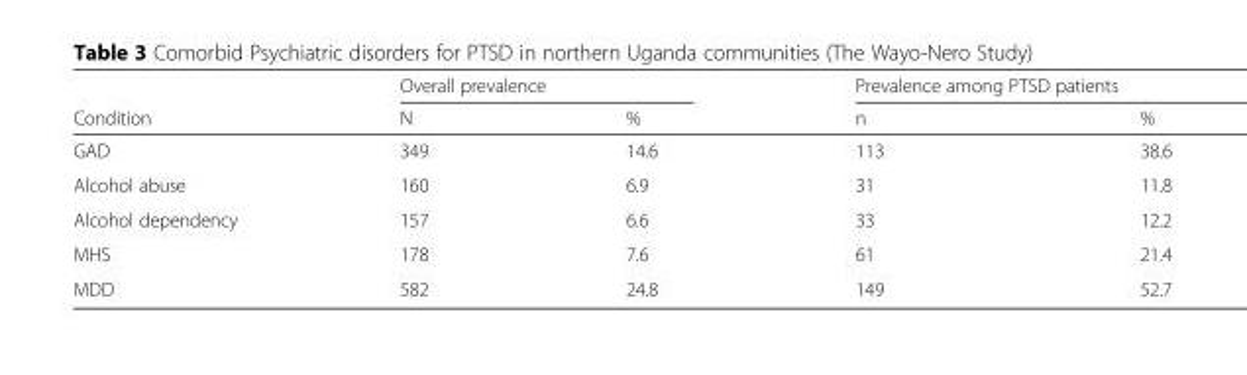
<table><thead><tr><td rowspan="2">Condition</td><td colspan="2">Overall prevalence</td><td colspan="2">Prevalence among PTSD patients</td></tr><tr><td>N</td><td>%</td><td>n</td><td>%</td></tr></thead><tbody><tr><td>GAD</td><td>349</td><td>14.6</td><td>113</td><td>38.6</td></tr><tr><td>Alcohol abuse</td><td>160</td><td>6.9</td><td>31</td><td>11.8</td></tr><tr><td>Alcohol dependency</td><td>157</td><td>6.6</td><td>33</td><td>12.2</td></tr><tr><td>MHS</td><td>178</td><td>7.6</td><td>61</td><td>21.4</td></tr><tr><td>MDD</td><td>582</td><td>24.8</td><td>149</td><td>52.7</td></tr></tbody></table>